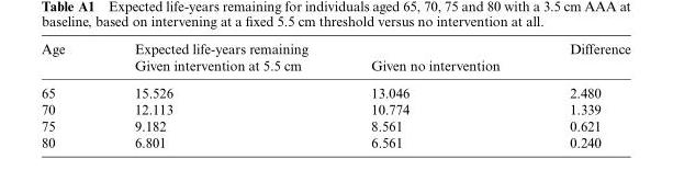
<table><thead><tr><td rowspan="2">Age</td><td colspan="2">Expected life-years remaining</td><td rowspan="2">Difference</td></tr><tr><td>Given intervention at 5.5 cm</td><td>Given no intervention</td></tr></thead><tbody><tr><td>65</td><td>15.526</td><td>13.046</td><td>2.480</td></tr><tr><td>70</td><td>12.113</td><td>10.774</td><td>1.339</td></tr><tr><td>75</td><td>9.182</td><td>8.561</td><td>0.621</td></tr><tr><td>80</td><td>6.801</td><td>6.561</td><td>0.240</td></tr></tbody></table>